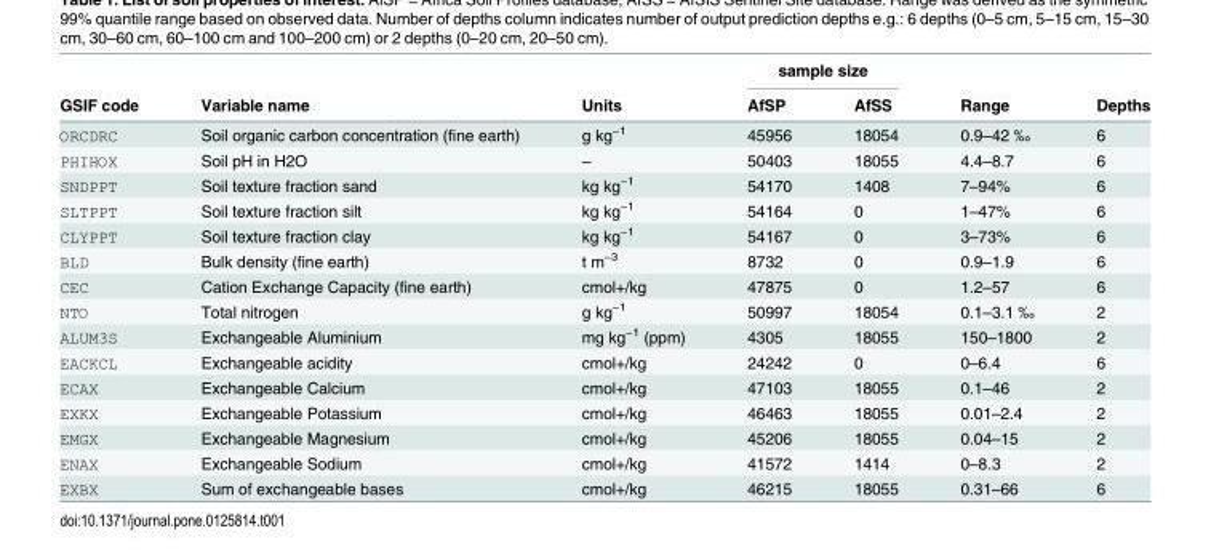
<table><thead><tr><td rowspan="2">GSIF code</td><td rowspan="2">Variable name</td><td rowspan="2">Units</td><td colspan="2">sample size</td><td rowspan="2">Range</td><td rowspan="2">Depths</td></tr><tr><td>AfSP</td><td>AfSS</td></tr></thead><tbody><tr><td>ORCDRC</td><td>Soil organic carbon concentration (fine earth)</td><td>g kg<sup>−1</sup></td><td>45956</td><td>18054</td><td>0.9–42 ‰</td><td>6</td></tr><tr><td>PHIHOX</td><td>Soil pH in H2O</td><td>–</td><td>50403</td><td>18055</td><td>4.4–8.7</td><td>6</td></tr><tr><td>SNDPPT</td><td>Soil texture fraction sand</td><td>kg kg<sup>−1</sup></td><td>54170</td><td>1408</td><td>7–94%</td><td>6</td></tr><tr><td>SLTPPT</td><td>Soil texture fraction silt</td><td>kg kg<sup>−1</sup></td><td>54164</td><td>0</td><td>1–47%</td><td>6</td></tr><tr><td>CLYPPT</td><td>Soil texture fraction clay</td><td>kg kg<sup>−1</sup></td><td>54167</td><td>0</td><td>3–73%</td><td>6</td></tr><tr><td>BLD</td><td>Bulk density (fine earth)</td><td>t m<sup>−3</sup></td><td>8732</td><td>0</td><td>0.9–1.9</td><td>6</td></tr><tr><td>CEC</td><td>Cation Exchange Capacity (fine earth)</td><td>cmol+/kg</td><td>47875</td><td>0</td><td>1.2–57</td><td>6</td></tr><tr><td>NTO</td><td>Total nitrogen</td><td>g kg<sup>−1</sup></td><td>50997</td><td>18054</td><td>0.1–3.1 ‰</td><td>2</td></tr><tr><td>ALUM3S</td><td>Exchangeable Aluminium</td><td>mg kg<sup>−1</sup> (ppm)</td><td>4305</td><td>18055</td><td>150–1800</td><td>2</td></tr><tr><td>EACKCL</td><td>Exchangeable acidity</td><td>cmol+/kg</td><td>24242</td><td>0</td><td>0–6.4</td><td>6</td></tr><tr><td>ECAX</td><td>Exchangeable Calcium</td><td>cmol+/kg</td><td>47103</td><td>18055</td><td>0.1–46</td><td>2</td></tr><tr><td>EXKX</td><td>Exchangeable Potassium</td><td>cmol+/kg</td><td>46463</td><td>18055</td><td>0.01–2.4</td><td>2</td></tr><tr><td>EMGX</td><td>Exchangeable Magnesium</td><td>cmol+/kg</td><td>45206</td><td>18055</td><td>0.04–15</td><td>2</td></tr><tr><td>ENAX</td><td>Exchangeable Sodium</td><td>cmol+/kg</td><td>41572</td><td>1414</td><td>0–8.3</td><td>2</td></tr><tr><td>EXBX</td><td>Sum of exchangeable bases</td><td>cmol+/kg</td><td>46215</td><td>18055</td><td>0.31–66</td><td>6</td></tr></tbody></table>